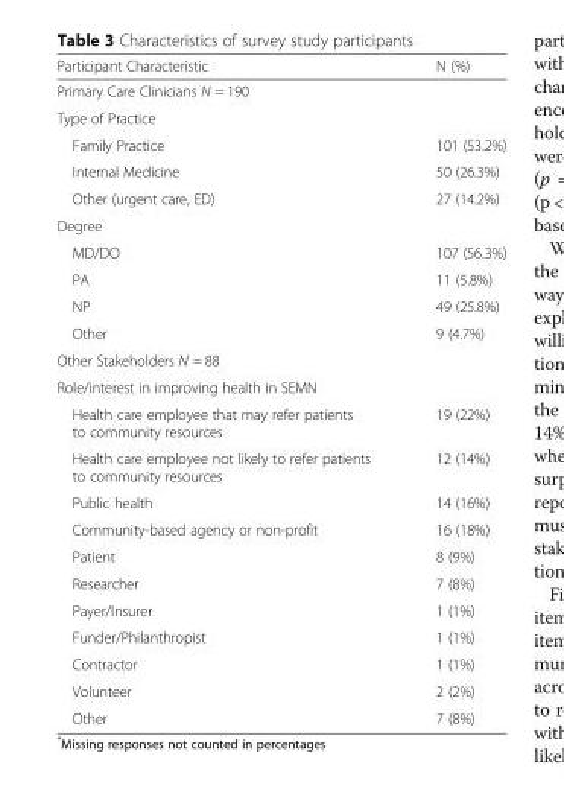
<table><thead><tr><td>Participant Characteristic</td><td>N (%)</td></tr></thead><tbody><tr><td colspan="2">Primary Care Clinicians N = 190</td></tr><tr><td colspan="2">Type of Practice</td></tr><tr><td>Family Practice</td><td>101 (53.2%)</td></tr><tr><td>Internal Medicine</td><td>50 (26.3%)</td></tr><tr><td>Other (urgent care, ED)</td><td>27 (14.2%)</td></tr><tr><td colspan="2">Degree</td></tr><tr><td>MD/DO</td><td>107 (56.3%)</td></tr><tr><td>PA</td><td>11 (5.8%)</td></tr><tr><td>NP</td><td>49 (25.8%)</td></tr><tr><td>Other</td><td>9 (4.7%)</td></tr><tr><td colspan="2">Other Stakeholders N = 88</td></tr><tr><td colspan="2">Role/interest in improving health in SEMN</td></tr><tr><td>Health care employee that may refer patients to community resources</td><td>19 (22%)</td></tr><tr><td>Health care employee not likely to refer patients to community resources</td><td>12 (14%)</td></tr><tr><td>Public health</td><td>14 (16%)</td></tr><tr><td>Community-based agency or non-profit</td><td>16 (18%)</td></tr><tr><td>Patient</td><td>8 (9%)</td></tr><tr><td>Researcher</td><td>7 (8%)</td></tr><tr><td>Payer/Insurer</td><td>1 (1%)</td></tr><tr><td>Funder/Philanthropist</td><td>1 (1%)</td></tr><tr><td>Contractor</td><td>1 (1%)</td></tr><tr><td>Volunteer</td><td>2 (2%)</td></tr><tr><td>Other</td><td>7 (8%)</td></tr></tbody></table>